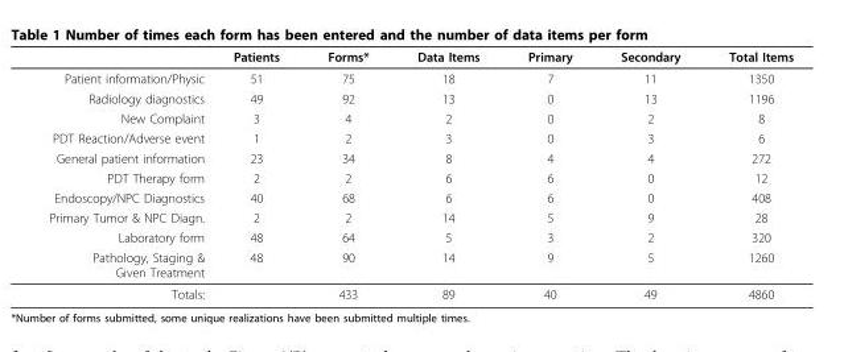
<table><thead><tr><td></td><td>Patients</td><td>Forms*</td><td>Data Items</td><td>Primary</td><td>Secondary</td><td>Total Items</td></tr></thead><tbody><tr><td>Patient information/Physic</td><td>51</td><td>75</td><td>18</td><td>7</td><td>11</td><td>1350</td></tr><tr><td>Radiology diagnostics</td><td>49</td><td>92</td><td>13</td><td>0</td><td>13</td><td>1196</td></tr><tr><td>New Complaint</td><td>3</td><td>4</td><td>2</td><td>0</td><td>2</td><td>8</td></tr><tr><td>PDT Reaction/Adverse event</td><td>1</td><td>2</td><td>3</td><td>0</td><td>3</td><td>6</td></tr><tr><td>General patient information</td><td>23</td><td>34</td><td>8</td><td>4</td><td>4</td><td>272</td></tr><tr><td>PDT Therapy form</td><td>2</td><td>2</td><td>6</td><td>6</td><td>0</td><td>12</td></tr><tr><td>Endoscopy/NPC Diagnostics</td><td>40</td><td>68</td><td>6</td><td>6</td><td>0</td><td>408</td></tr><tr><td>Primary Tumor &amp; NPC Diagn.</td><td>2</td><td>2</td><td>14</td><td>5</td><td>9</td><td>28</td></tr><tr><td>Laboratory form</td><td>48</td><td>64</td><td>5</td><td>3</td><td>2</td><td>320</td></tr><tr><td>Pathology, Staging &amp; Given Treatment</td><td>48</td><td>90</td><td>14</td><td>9</td><td>5</td><td>1260</td></tr><tr><td>Totals:</td><td></td><td>433</td><td>89</td><td>40</td><td>49</td><td>4860</td></tr></tbody></table>